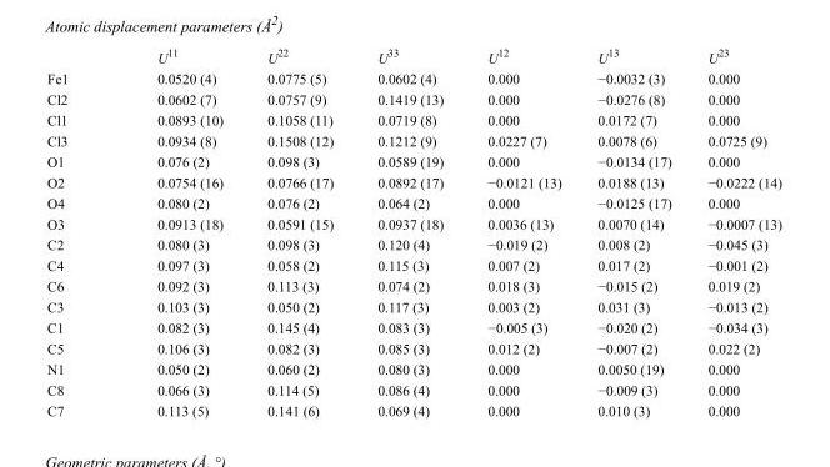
<table><thead><tr><td></td><td>U<sup>11</sup></td><td>U<sup>22</sup></td><td>U<sup>33</sup></td><td>U<sup>12</sup></td><td>U<sup>13</sup></td><td>U<sup>23</sup></td></tr></thead><tbody><tr><td>Fe1</td><td>0.0520 (4)</td><td>0.0775 (5)</td><td>0.0602 (4)</td><td>0.000</td><td>−0.0032 (3)</td><td>0.000</td></tr><tr><td>Cl2</td><td>0.0602 (7)</td><td>0.0757 (9)</td><td>0.1419 (13)</td><td>0.000</td><td>−0.0276 (8)</td><td>0.000</td></tr><tr><td>Cl1</td><td>0.0893 (10)</td><td>0.1058 (11)</td><td>0.0719 (8)</td><td>0.000</td><td>0.0172 (7)</td><td>0.000</td></tr><tr><td>Cl3</td><td>0.0934 (8)</td><td>0.1508 (12)</td><td>0.1212 (9)</td><td>0.0227 (7)</td><td>0.0078 (6)</td><td>0.0725 (9)</td></tr><tr><td>O1</td><td>0.076 (2)</td><td>0.098 (3)</td><td>0.0589 (19)</td><td>0.000</td><td>−0.0134 (17)</td><td>0.000</td></tr><tr><td>O2</td><td>0.0754 (16)</td><td>0.0766 (17)</td><td>0.0892 (17)</td><td>−0.0121 (13)</td><td>0.0188 (13)</td><td>−0.0222 (14)</td></tr><tr><td>O4</td><td>0.080 (2)</td><td>0.076 (2)</td><td>0.064 (2)</td><td>0.000</td><td>−0.0125 (17)</td><td>0.000</td></tr><tr><td>O3</td><td>0.0913 (18)</td><td>0.0591 (15)</td><td>0.0937 (18)</td><td>0.0036 (13)</td><td>0.0070 (14)</td><td>−0.0007 (13)</td></tr><tr><td>C2</td><td>0.080 (3)</td><td>0.098 (3)</td><td>0.120 (4)</td><td>−0.019 (2)</td><td>0.008 (2)</td><td>−0.045 (3)</td></tr><tr><td>C4</td><td>0.097 (3)</td><td>0.058 (2)</td><td>0.115 (3)</td><td>0.007 (2)</td><td>0.017 (2)</td><td>−0.001 (2)</td></tr><tr><td>C6</td><td>0.092 (3)</td><td>0.113 (3)</td><td>0.074 (2)</td><td>0.018 (3)</td><td>−0.015 (2)</td><td>0.019 (2)</td></tr><tr><td>C3</td><td>0.103 (3)</td><td>0.050 (2)</td><td>0.117 (3)</td><td>0.003 (2)</td><td>0.031 (3)</td><td>−0.013 (2)</td></tr><tr><td>C1</td><td>0.082 (3)</td><td>0.145 (4)</td><td>0.083 (3)</td><td>−0.005 (3)</td><td>−0.020 (2)</td><td>−0.034 (3)</td></tr><tr><td>C5</td><td>0.106 (3)</td><td>0.082 (3)</td><td>0.085 (3)</td><td>0.012 (2)</td><td>−0.007 (2)</td><td>0.022 (2)</td></tr><tr><td>N1</td><td>0.050 (2)</td><td>0.060 (2)</td><td>0.080 (3)</td><td>0.000</td><td>0.0050 (19)</td><td>0.000</td></tr><tr><td>C8</td><td>0.066 (3)</td><td>0.114 (5)</td><td>0.086 (4)</td><td>0.000</td><td>−0.009 (3)</td><td>0.000</td></tr><tr><td>C7</td><td>0.113 (5)</td><td>0.141 (6)</td><td>0.069 (4)</td><td>0.000</td><td>0.010 (3)</td><td>0.000</td></tr></tbody></table>